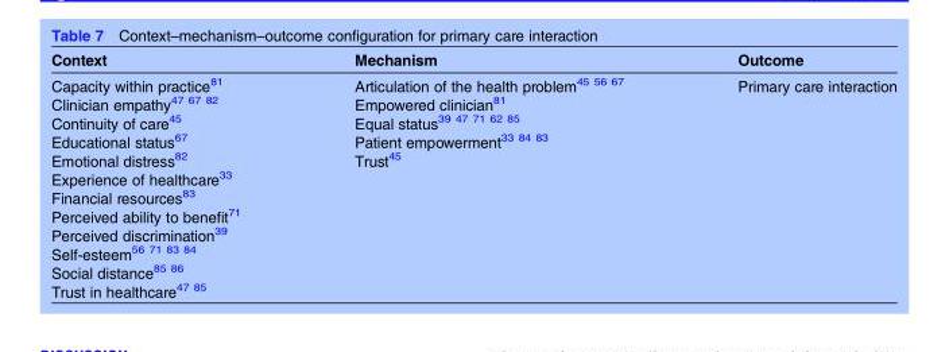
<table><thead><tr><td>Context</td><td>Mechanism</td><td>Outcome</td></tr></thead><tbody><tr><td>Capacity within practice<sup>81</sup> Clinician empathy<sup>47 67 82</sup> Continuity of care<sup>45</sup> Educational status<sup>67</sup> Emotional distress<sup>82</sup> Experience of healthcare<sup>33</sup> Financial resources<sup>83</sup> Perceived ability to benefit<sup>71</sup> Perceived discrimination<sup>39</sup> Self-esteem<sup>56 71 83 84</sup> Social distance<sup>85 86</sup> Trust in healthcare<sup>47 85</sup></td><td>Articulation of the health problem<sup>45 56 67</sup> Empowered clinician<sup>81</sup> Equal status<sup>39 47 71 62 85</sup> Patient empowerment<sup>33 84 83</sup> Trust<sup>45</sup></td><td>Primary care interaction</td></tr></tbody></table>